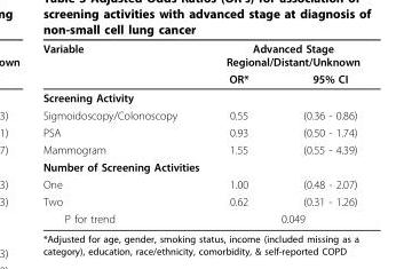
<table><thead><tr><td rowspan="2">Variable</td><td colspan="2">Advanced Stage Regional/Distant/Unknown</td></tr><tr><td>OR*</td><td>95% CI</td></tr></thead><tbody><tr><td colspan="3">Screening Activity</td></tr><tr><td>Sigmoidoscopy/Colonoscopy</td><td>0.55</td><td>(0.36 - 0.86)</td></tr><tr><td>PSA</td><td>0.93</td><td>(0.50 - 1.74)</td></tr><tr><td>Mammogram</td><td>1.55</td><td>(0.55 - 4.39)</td></tr><tr><td colspan="3">Number of Screening Activities</td></tr><tr><td>One</td><td>1.00</td><td>(0.48 - 2.07)</td></tr><tr><td>Two</td><td>0.62</td><td>(0.31 - 1.26)</td></tr><tr><td>P for trend</td><td colspan="2">0.049</td></tr></tbody></table>